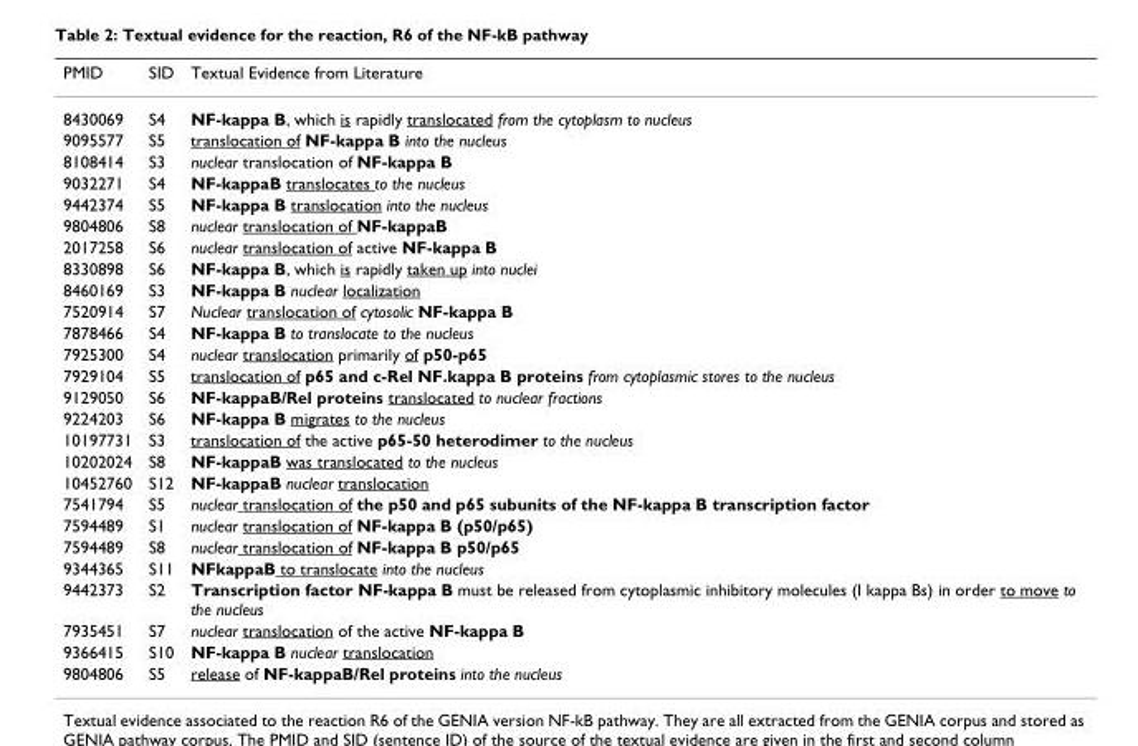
<table><thead><tr><td>PMID</td><td>SID</td><td>Textual Evidence from Literature</td></tr></thead><tbody><tr><td>8430069</td><td>S4</td><td>NF-kappa B, which is rapidly translocated from the cytoplasm to nucleus</td></tr><tr><td>9095577</td><td>S5</td><td>translocation of NF-kappa B into the nucleus</td></tr><tr><td>8108414</td><td>S3</td><td>nuclear translocation of NF-kappa B</td></tr><tr><td>9032271</td><td>S4</td><td>NF-kappaB translocates to the nucleus</td></tr><tr><td>9442374</td><td>S5</td><td>NF-kappa B translocation into the nucleus</td></tr><tr><td>9804806</td><td>S8</td><td>nuclear translocation of NF-kappaB</td></tr><tr><td>2017258</td><td>S6</td><td>nuclear translocation of active NF-kappa B</td></tr><tr><td>8330898</td><td>S6</td><td>NF-kappa B, which is rapidly taken up into nuclei</td></tr><tr><td>8460169</td><td>S3</td><td>NF-kappa B nuclear localization</td></tr><tr><td>7520914</td><td>S7</td><td>Nuclear translocation of cytosolic NF-kappa B</td></tr><tr><td>7878466</td><td>S4</td><td>NF-kappa B to translocate to the nucleus</td></tr><tr><td>7925300</td><td>S4</td><td>nuclear translocation primarily of p50-p65</td></tr><tr><td>7929104</td><td>S5</td><td>translocation of p65 and c-Rel NF.kappa B proteins from cytoplasmic stores to the nucleus</td></tr><tr><td>9129050</td><td>S6</td><td>NF-kappaB/Rel proteins translocated to nuclear fractions</td></tr><tr><td>9224203</td><td>S6</td><td>NF-kappa B migrates to the nucleus</td></tr><tr><td>10197731</td><td>S3</td><td>translocation of the active p65-50 heterodimer to the nucleus</td></tr><tr><td>10202024</td><td>S8</td><td>NF-kappaB was translocated to the nucleus</td></tr><tr><td>10452760</td><td>S12</td><td>NF-kappaB nuclear translocation</td></tr><tr><td>7541794</td><td>S5</td><td>nuclear translocation of the p50 and p65 subunits of the NF-kappa B transcription factor</td></tr><tr><td>7594489</td><td>S1</td><td>nuclear translocation of NF-kappa B (p50/p65)</td></tr><tr><td>7594489</td><td>S8</td><td>nuclear translocation of NF-kappa B p50/p65</td></tr><tr><td>9344365</td><td>S11</td><td>NFkappaB to translocate into the nucleus</td></tr><tr><td>9442373</td><td>S2</td><td>Transcription factor NF-kappa B must be released from cytoplasmic inhibitory molecules (I kappa Bs) in order to move to the nucleus</td></tr><tr><td>7935451</td><td>S7</td><td>nuclear translocation of the active NF-kappa B</td></tr><tr><td>9366415</td><td>S10</td><td>NF-kappa B nuclear translocation</td></tr><tr><td>9804806</td><td>S5</td><td>release of NF-kappaB/Rel proteins into the nucleus</td></tr></tbody></table>